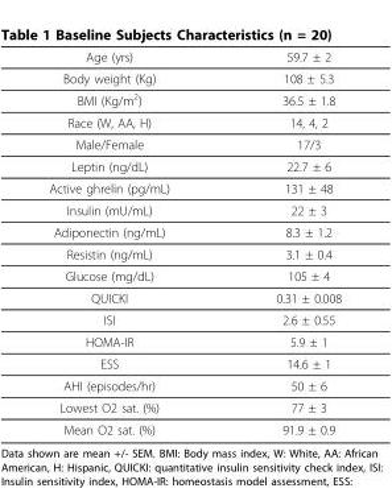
<table><thead><tr><td>Age (yrs)</td><td>59.7 ± 2</td></tr></thead><tbody><tr><td>Body weight (Kg)</td><td>108 ± 5.3</td></tr><tr><td>BMI (Kg/m<sup>2</sup>)</td><td>36.5 ± 1.8</td></tr><tr><td>Race (W, AA, H)</td><td>14, 4, 2</td></tr><tr><td>Male/Female</td><td>17/3</td></tr><tr><td>Leptin (ng/dL)</td><td>22.7 ± 6</td></tr><tr><td>Active ghrelin (pg/mL)</td><td>131 ± 48</td></tr><tr><td>Insulin (mU/mL)</td><td>22 ± 3</td></tr><tr><td>Adiponectin (ng/mL)</td><td>8.3 ± 1.2</td></tr><tr><td>Resistin (ng/mL)</td><td>3.1 ± 0.4</td></tr><tr><td>Glucose (mg/dL)</td><td>105 ± 4</td></tr><tr><td>QUICKI</td><td>0.31 ± 0.008</td></tr><tr><td>ISI</td><td>2.6 ± 0.55</td></tr><tr><td>HOMA-IR</td><td>5.9 ± 1</td></tr><tr><td>ESS</td><td>14.6 ± 1</td></tr><tr><td>AHI (episodes/hr)</td><td>50 ± 6</td></tr><tr><td>Lowest O2 sat. (%)</td><td>77 ± 3</td></tr><tr><td>Mean O2 sat. (%)</td><td>91.9 ± 0.9</td></tr></tbody></table>